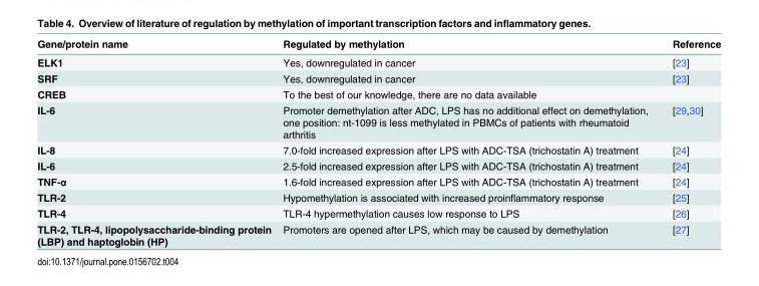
<table><thead><tr><td>Gene/protein name</td><td>Regulated by methylation</td><td>Reference</td></tr></thead><tbody><tr><td>ELK1</td><td>Yes, downregulated in cancer</td><td>[23]</td></tr><tr><td>SRF</td><td>Yes, downregulated in cancer</td><td>[23]</td></tr><tr><td>CREB</td><td>To the best of our knowledge, there are no data available</td><td></td></tr><tr><td>IL-6</td><td>Promoter demethylation after ADC, LPS has no additional effect on demethylation, one position: nt-1099 is less methylated in PBMCs of patients with rheumatoid arthritis</td><td>[29,30]</td></tr><tr><td>IL-8</td><td>7.0-fold increased expression after LPS with ADC-TSA (trichostatin A) treatment</td><td>[24]</td></tr><tr><td>IL-6</td><td>2.5-fold increased expression after LPS with ADC-TSA (trichostatin A) treatment</td><td>[24]</td></tr><tr><td>TNF-α</td><td>1.6-fold increased expression after LPS with ADC-TSA (trichostatin A) treatment</td><td>[24]</td></tr><tr><td>TLR-2</td><td>Hypomethylation is associated with increased proinflammatory response</td><td>[25]</td></tr><tr><td>TLR-4</td><td>TLR-4 hypermethylation causes low response to LPS</td><td>[26]</td></tr><tr><td>TLR-2, TLR-4, lipopolysaccharide-binding protein (LBP) and haptoglobin (HP)</td><td>Promoters are opened after LPS, which may be caused by demethylation</td><td>[27]</td></tr></tbody></table>